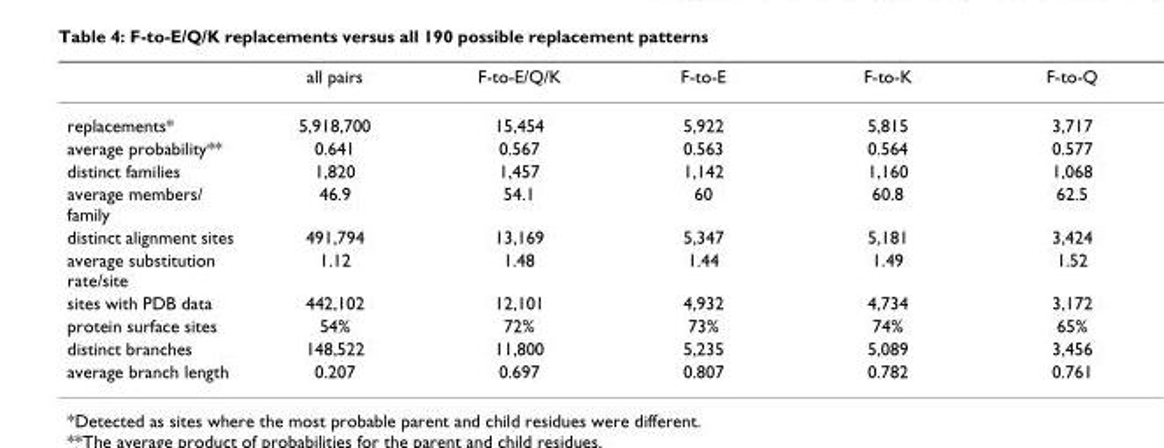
<table><thead><tr><td></td><td>all pairs</td><td>F-to-E/Q/K</td><td>F-to-E</td><td>F-to-K</td><td>F-to-Q</td></tr></thead><tbody><tr><td>replacements*</td><td>5,918,700</td><td>15,454</td><td>5,922</td><td>5,815</td><td>3,717</td></tr><tr><td>average probability**</td><td>0.641</td><td>0.567</td><td>0.563</td><td>0.564</td><td>0.577</td></tr><tr><td>distinct families</td><td>1,820</td><td>1,457</td><td>1,142</td><td>1,160</td><td>1,068</td></tr><tr><td>average members/ family</td><td>46.9</td><td>54.1</td><td>60</td><td>60.8</td><td>62.5</td></tr><tr><td>distinct alignment sites</td><td>491,794</td><td>13,169</td><td>5,347</td><td>5,181</td><td>3,424</td></tr><tr><td>average substitution rate/site</td><td>1.12</td><td>1.48</td><td>1.44</td><td>1.49</td><td>1.52</td></tr><tr><td>sites with PDB data</td><td>442,102</td><td>12,101</td><td>4,932</td><td>4,734</td><td>3,172</td></tr><tr><td>protein surface sites</td><td>54%</td><td>72%</td><td>73%</td><td>74%</td><td>65%</td></tr><tr><td>distinct branches</td><td>148,522</td><td>11,800</td><td>5,235</td><td>5,089</td><td>3,456</td></tr><tr><td>average branch length</td><td>0.207</td><td>0.697</td><td>0.807</td><td>0.782</td><td>0.761</td></tr></tbody></table>